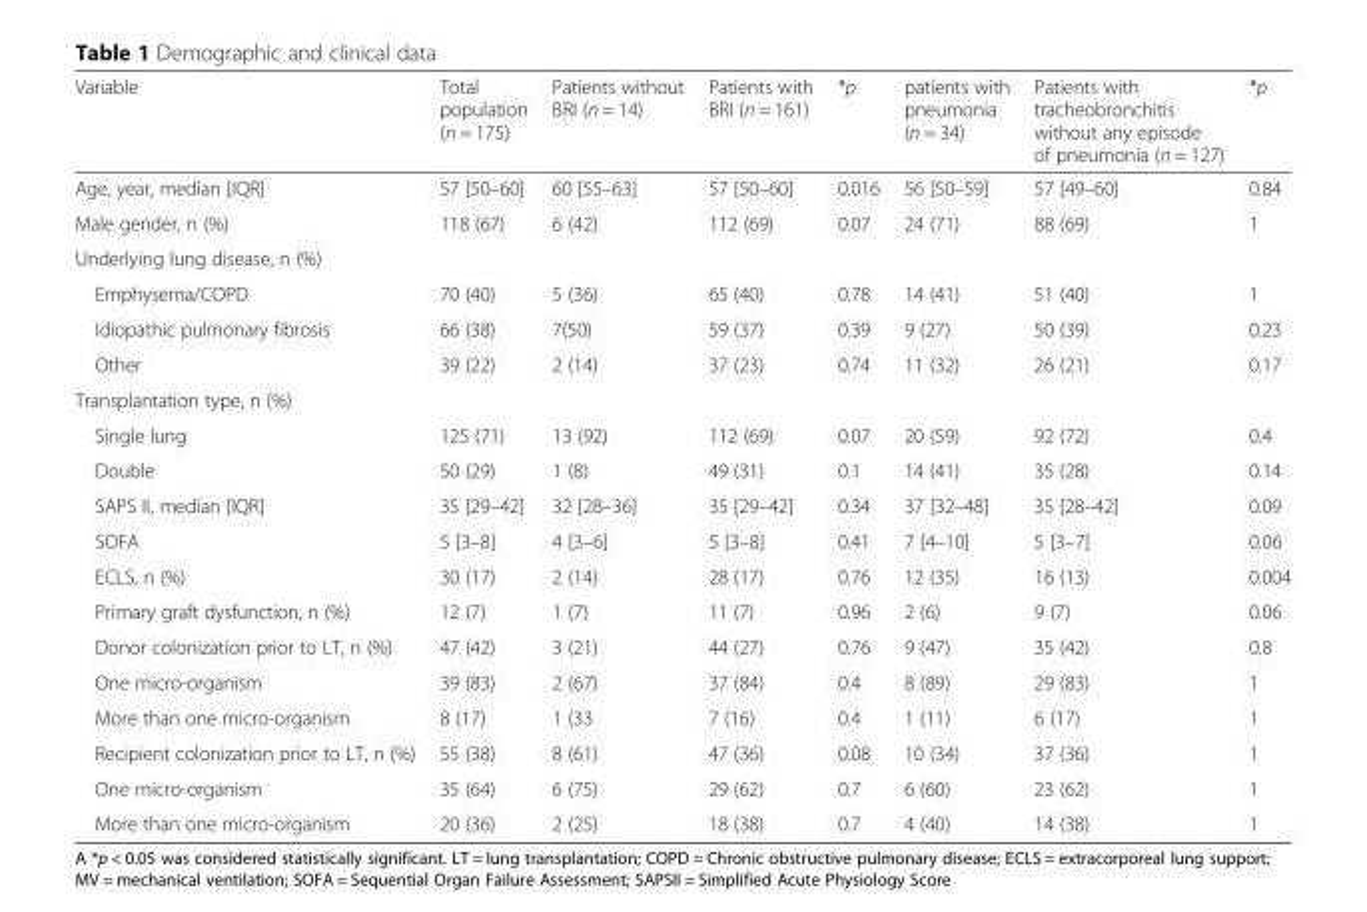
<table><thead><tr><td>Variable</td><td>Total population (n = 175)</td><td>Patients without BRI (n = 14)</td><td>Patients with BRI (n = 161)</td><td>*p</td><td>patients with pneumonia (n = 34)</td><td>Patients with tracheobronchitis without any episode of pneumonia (n = 127)</td><td>*p</td></tr></thead><tbody><tr><td>Age, year, median [IQR]</td><td>57 [50–60]</td><td>60 [55–63]</td><td>57 [50–60]</td><td>0.016</td><td>56 [50–59]</td><td>57 [49–60]</td><td>0.84</td></tr><tr><td>Male gender, n (%)</td><td>118 (67)</td><td>6 (42)</td><td>112 (69)</td><td>0.07</td><td>24 (71)</td><td>88 (69)</td><td>1</td></tr><tr><td colspan="8">Underlying lung disease, n (%)</td></tr><tr><td>Emphysema/COPD</td><td>70 (40)</td><td>5 (36)</td><td>65 (40)</td><td>0.78</td><td>14 (41)</td><td>51 (40)</td><td>1</td></tr><tr><td>Idiopathic pulmonary fibrosis</td><td>66 (38)</td><td>7(50)</td><td>59 (37)</td><td>0.39</td><td>9 (27)</td><td>50 (39)</td><td>0.23</td></tr><tr><td>Other</td><td>39 (22)</td><td>2 (14)</td><td>37 (23)</td><td>0.74</td><td>11 (32)</td><td>26 (21)</td><td>0.17</td></tr><tr><td colspan="8">Transplantation type, n (%)</td></tr><tr><td>Single lung</td><td>125 (71)</td><td>13 (92)</td><td>112 (69)</td><td>0.07</td><td>20 (59)</td><td>92 (72)</td><td>0.4</td></tr><tr><td>Double</td><td>50 (29)</td><td>1 (8)</td><td>49 (31)</td><td>0.1</td><td>14 (41)</td><td>35 (28)</td><td>0.14</td></tr><tr><td>SAPS II, median [IQR]</td><td>35 [29–42]</td><td>32 [28–36]</td><td>35 [29–42]</td><td>0.34</td><td>37 [32–48]</td><td>35 [28–42]</td><td>0.09</td></tr><tr><td>SOFA</td><td>5 [3–8]</td><td>4 [3–6]</td><td>5 [3–8]</td><td>0.41</td><td>7 [4–10]</td><td>5 [3–7]</td><td>0.06</td></tr><tr><td>ECLS, n (%)</td><td>30 (17)</td><td>2 (14)</td><td>28 (17)</td><td>0.76</td><td>12 (35)</td><td>16 (13)</td><td>0.004</td></tr><tr><td>Primary graft dysfunction, n (%)</td><td>12 (7)</td><td>1 (7)</td><td>11 (7)</td><td>0.96</td><td>2 (6)</td><td>9 (7)</td><td>0.06</td></tr><tr><td>Donor colonization prior to LT, n (%)</td><td>47 (42)</td><td>3 (21)</td><td>44 (27)</td><td>0.76</td><td>9 (47)</td><td>35 (42)</td><td>0.8</td></tr><tr><td>One micro-organism</td><td>39 (83)</td><td>2 (67)</td><td>37 (84)</td><td>0.4</td><td>8 (89)</td><td>29 (83)</td><td>1</td></tr><tr><td>More than one micro-organism</td><td>8 (17)</td><td>1 (33</td><td>7 (16)</td><td>0.4</td><td>1 (11)</td><td>6 (17)</td><td>1</td></tr><tr><td>Recipient colonization prior to LT, n (%)</td><td>55 (38)</td><td>8 (61)</td><td>47 (36)</td><td>0.08</td><td>10 (34)</td><td>37 (36)</td><td>1</td></tr><tr><td>One micro-organism</td><td>35 (64)</td><td>6 (75)</td><td>29 (62)</td><td>0.7</td><td>6 (60)</td><td>23 (62)</td><td>1</td></tr><tr><td>More than one micro-organism</td><td>20 (36)</td><td>2 (25)</td><td>18 (38)</td><td>0.7</td><td>4 (40)</td><td>14 (38)</td><td>1</td></tr></tbody></table>